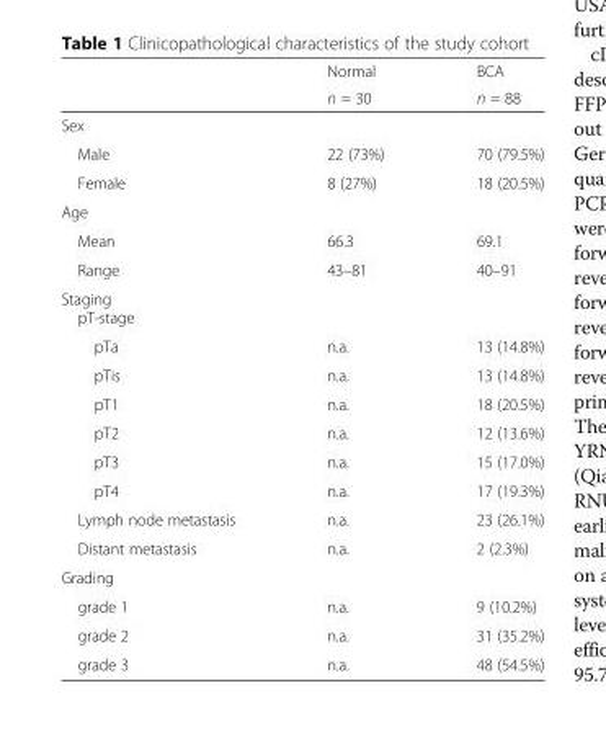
<table><thead><tr><td rowspan="2"></td><td rowspan="2">Normal n = 30</td><td rowspan="2">BCA n = 88</td></tr><tr></tr></thead><tbody><tr><td colspan="3">Sex</td></tr><tr><td>Male</td><td>22 (73%)</td><td>70 (79.5%)</td></tr><tr><td>Female</td><td>8 (27%)</td><td>18 (20.5%)</td></tr><tr><td colspan="3">Age</td></tr><tr><td>Mean</td><td>66.3</td><td>69.1</td></tr><tr><td>Range</td><td>43–81</td><td>40–91</td></tr><tr><td colspan="3">Staging pT-stage</td></tr><tr><td>pTa</td><td>n.a.</td><td>13 (14.8%)</td></tr><tr><td>pTis</td><td>n.a.</td><td>13 (14.8%)</td></tr><tr><td>pT1</td><td>n.a.</td><td>18 (20.5%)</td></tr><tr><td>pT2</td><td>n.a.</td><td>12 (13.6%)</td></tr><tr><td>pT3</td><td>n.a.</td><td>15 (17.0%)</td></tr><tr><td>pT4</td><td>n.a.</td><td>17 (19.3%)</td></tr><tr><td>Lymph node metastasis</td><td>n.a.</td><td>23 (26.1%)</td></tr><tr><td>Distant metastasis</td><td>n.a.</td><td>2 (2.3%)</td></tr><tr><td colspan="3">Grading</td></tr><tr><td>grade 1</td><td>n.a.</td><td>9 (10.2%)</td></tr><tr><td>grade 2</td><td>n.a.</td><td>31 (35.2%)</td></tr><tr><td>grade 3</td><td>n.a.</td><td>48 (54.5%)</td></tr></tbody></table>